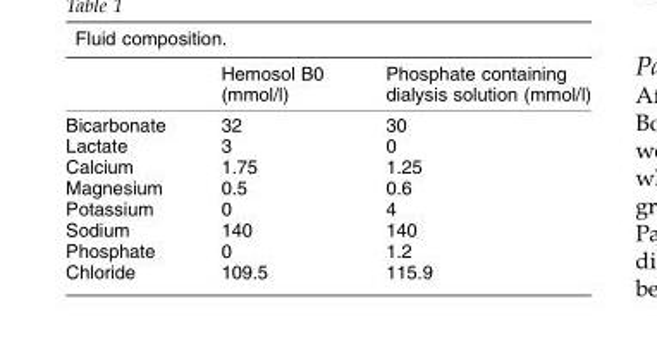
<table><thead><tr><td></td><td>Hemosol B0 (mmol/l)</td><td>Phosphate containing dialysis solution (mmol/l)</td></tr></thead><tbody><tr><td>Bicarbonate</td><td>32</td><td>30</td></tr><tr><td>Lactate</td><td>3</td><td>0</td></tr><tr><td>Calcium</td><td>1.75</td><td>1.25</td></tr><tr><td>Magnesium</td><td>0.5</td><td>0.6</td></tr><tr><td>Potassium</td><td>0</td><td>4</td></tr><tr><td>Sodium</td><td>140</td><td>140</td></tr><tr><td>Phosphate</td><td>0</td><td>1.2</td></tr><tr><td>Chloride</td><td>109.5</td><td>115.9</td></tr></tbody></table>